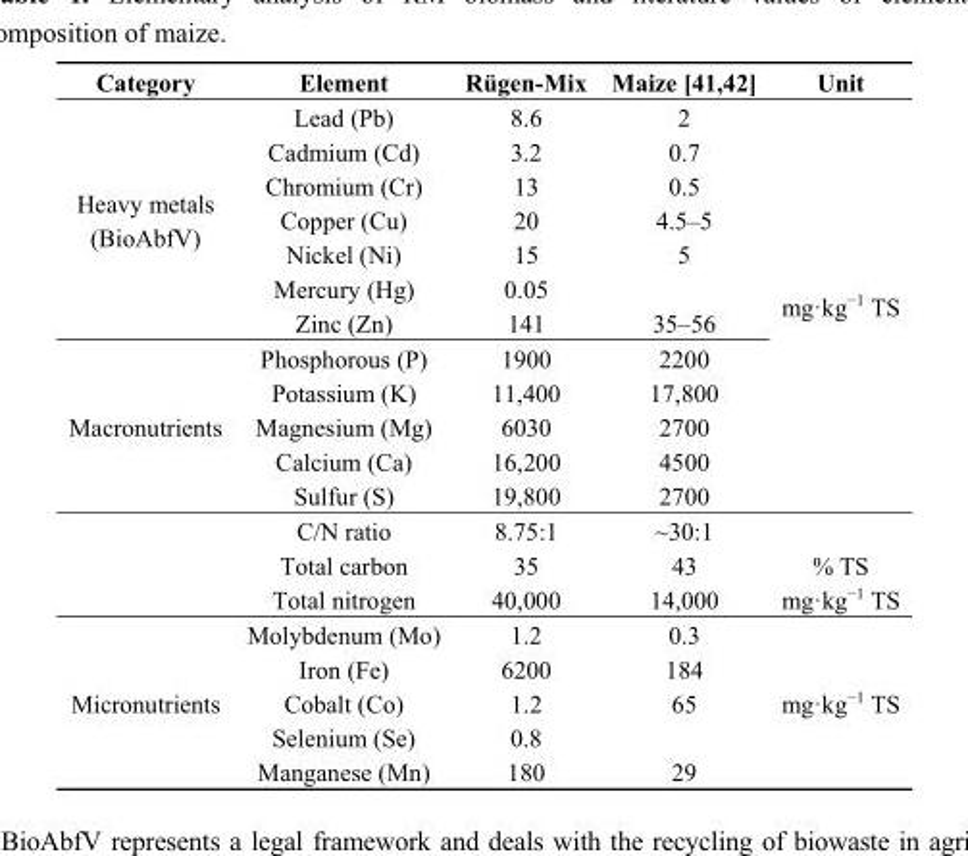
<table><thead><tr><td>Category</td><td>Element</td><td>Rügen-Mix</td><td>Maize [41,42]</td><td>Unit</td></tr></thead><tbody><tr><td rowspan="7">Heavy metals (BioAbfV)</td><td>Lead (Pb)</td><td>8.6</td><td>2</td><td rowspan="12">mg·kg<sup>−1</sup> TS</td></tr><tr><td>Cadmium (Cd)</td><td>3.2</td><td>0.7</td></tr><tr><td>Chromium (Cr)</td><td>13</td><td>0.5</td></tr><tr><td>Copper (Cu)</td><td>20</td><td>4.5–5</td></tr><tr><td>Nickel (Ni)</td><td>15</td><td>5</td></tr><tr><td>Mercury (Hg)</td><td>0.05</td><td></td></tr><tr><td>Zinc (Zn)</td><td>141</td><td>35–56</td></tr><tr><td rowspan="8">Macronutrients</td><td>Phosphorous (P)</td><td>1900</td><td>2200</td></tr><tr><td>Potassium (K)</td><td>11,400</td><td>17,800</td></tr><tr><td>Magnesium (Mg)</td><td>6030</td><td>2700</td></tr><tr><td>Calcium (Ca)</td><td>16,200</td><td>4500</td></tr><tr><td>Sulfur (S)</td><td>19,800</td><td>2700</td></tr><tr><td>C/N ratio</td><td>8.75:1</td><td>~30:1</td><td></td></tr><tr><td>Total carbon</td><td>35</td><td>43</td><td>% TS</td></tr><tr><td>Total nitrogen</td><td>40,000</td><td>14,000</td><td>mg·kg<sup>−1</sup> TS</td></tr><tr><td rowspan="5">Micronutrients</td><td>Molybdenum (Mo)</td><td>1.2</td><td>0.3</td><td rowspan="5">mg·kg<sup>−1</sup> TS</td></tr><tr><td>Iron (Fe)</td><td>6200</td><td>184</td></tr><tr><td>Cobalt (Co)</td><td>1.2</td><td>65</td></tr><tr><td>Selenium (Se)</td><td>0.8</td><td></td></tr><tr><td>Manganese (Mn)</td><td>180</td><td>29</td></tr></tbody></table>